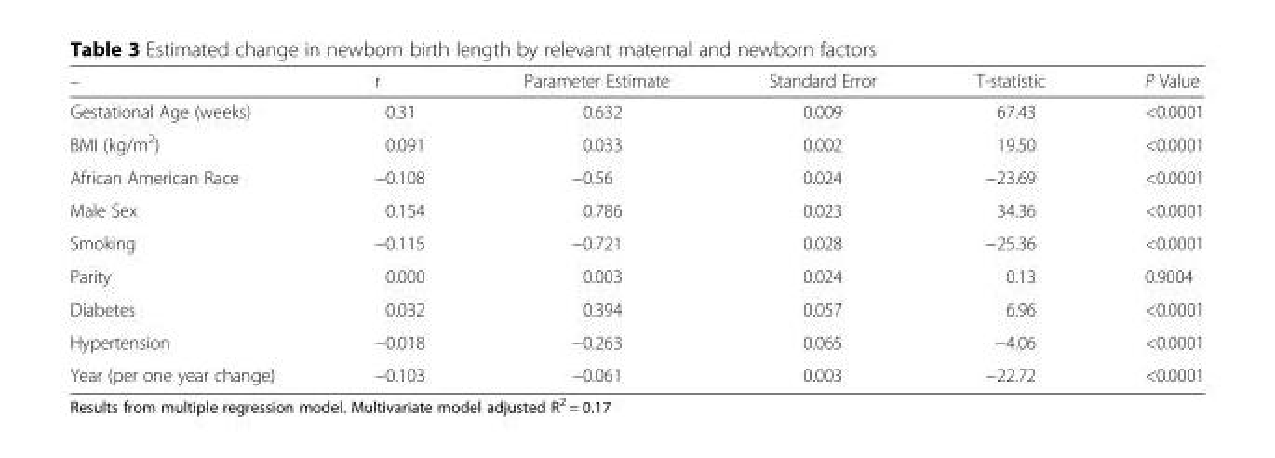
<table><thead><tr><td>–</td><td>r</td><td>Parameter Estimate</td><td>Standard Error</td><td>T-statistic</td><td>P Value</td></tr></thead><tbody><tr><td>Gestational Age (weeks)</td><td>0.31</td><td>0.632</td><td>0.009</td><td>67.43</td><td>&lt;0.0001</td></tr><tr><td>BMI (kg/m<sup>2</sup>)</td><td>0.091</td><td>0.033</td><td>0.002</td><td>19.50</td><td>&lt;0.0001</td></tr><tr><td>African American Race</td><td>−0.108</td><td>−0.56</td><td>0.024</td><td>−23.69</td><td>&lt;0.0001</td></tr><tr><td>Male Sex</td><td>0.154</td><td>0.786</td><td>0.023</td><td>34.36</td><td>&lt;0.0001</td></tr><tr><td>Smoking</td><td>−0.115</td><td>−0.721</td><td>0.028</td><td>−25.36</td><td>&lt;0.0001</td></tr><tr><td>Parity</td><td>0.000</td><td>0.003</td><td>0.024</td><td>0.13</td><td>0.9004</td></tr><tr><td>Diabetes</td><td>0.032</td><td>0.394</td><td>0.057</td><td>6.96</td><td>&lt;0.0001</td></tr><tr><td>Hypertension</td><td>−0.018</td><td>−0.263</td><td>0.065</td><td>−4.06</td><td>&lt;0.0001</td></tr><tr><td>Year (per one year change)</td><td>−0.103</td><td>−0.061</td><td>0.003</td><td>−22.72</td><td>&lt;0.0001</td></tr></tbody></table>